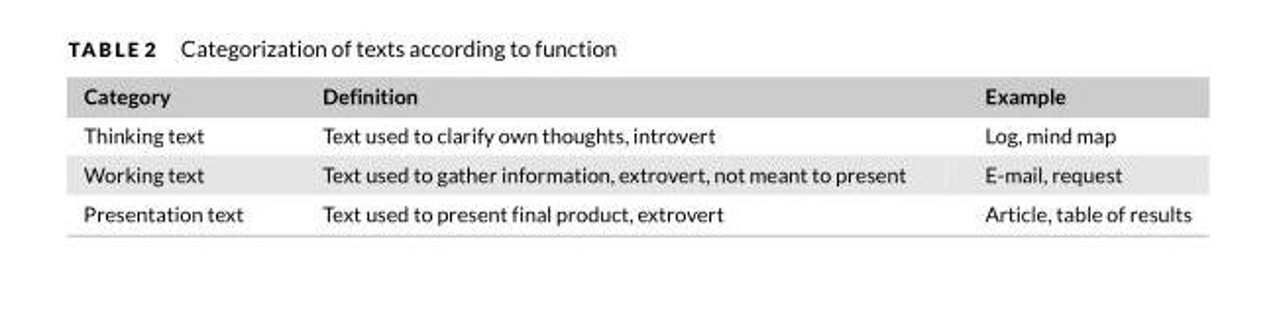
<table><thead><tr><td>Category</td><td>Definition</td><td>Example</td></tr></thead><tbody><tr><td>Thinking text</td><td>Text used to clarify own thoughts, introvert</td><td>Log, mind map</td></tr><tr><td>Working text</td><td>Text used to gather information, extrovert, not meant to present</td><td>E-mail, request</td></tr><tr><td>Presentation text</td><td>Text used to present final product, extrovert</td><td>Article, table of results</td></tr></tbody></table>